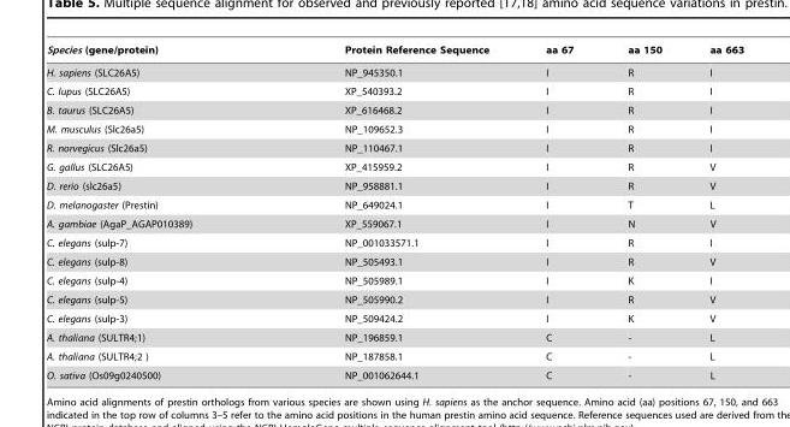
<table><thead><tr><td>Species (gene/protein)</td><td>Protein Reference Sequence</td><td>aa 67</td><td>aa 150</td><td>aa 663</td></tr></thead><tbody><tr><td>H. sapiens (SLC26A5)</td><td>NP_945350.1</td><td>I</td><td>R</td><td>I</td></tr><tr><td>C. lupus (SLC26A5)</td><td>XP_540393.2</td><td>I</td><td>R</td><td>I</td></tr><tr><td>B. taurus (SLC26A5)</td><td>XP_616468.2</td><td>I</td><td>R</td><td>I</td></tr><tr><td>M. musculus (Slc26a5)</td><td>NP_109652.3</td><td>I</td><td>R</td><td>I</td></tr><tr><td>R. norvegicus (Slc26a5)</td><td>NP_110467.1</td><td>I</td><td>R</td><td>I</td></tr><tr><td>G. gallus (SLC26A5)</td><td>XP_415959.2</td><td>I</td><td>R</td><td>V</td></tr><tr><td>D. rerio (slc26a5)</td><td>NP_958881.1</td><td>I</td><td>R</td><td>V</td></tr><tr><td>D. melanogaster (Prestin)</td><td>NP_649024.1</td><td>I</td><td>T</td><td>L</td></tr><tr><td>A. gambiae (AgaP_AGAP010389)</td><td>XP_559067.1</td><td>I</td><td>N</td><td>V</td></tr><tr><td>C. elegans (sulp-7)</td><td>NP_001033571.1</td><td>I</td><td>R</td><td>I</td></tr><tr><td>C. elegans (sulp-8)</td><td>NP_505493.1</td><td>I</td><td>R</td><td>V</td></tr><tr><td>C. elegans (sulp-4)</td><td>NP_505989.1</td><td>I</td><td>K</td><td>I</td></tr><tr><td>C. elegans (sulp-5)</td><td>NP_505990.2</td><td>I</td><td>R</td><td>V</td></tr><tr><td>C. elegans (sulp-3)</td><td>NP_509424.2</td><td>I</td><td>K</td><td>V</td></tr><tr><td>A. thaliana (SULTR4;1)</td><td>NP_196859.1</td><td>C</td><td>-</td><td>L</td></tr><tr><td>A. thaliana (SULTR4;2 )</td><td>NP_187858.1</td><td>C</td><td>-</td><td>L</td></tr><tr><td>O. sativa (Os09g0240500)</td><td>NP_001062644.1</td><td>C</td><td>-</td><td>L</td></tr></tbody></table>